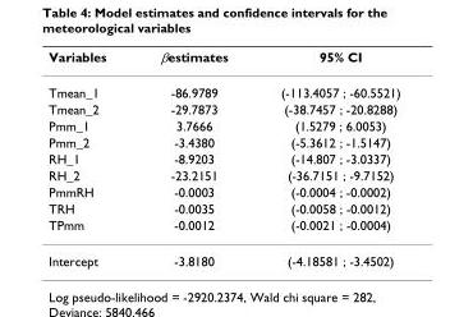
<table><thead><tr><td>Variables</td><td>βestimates</td><td>95% CI</td></tr></thead><tbody><tr><td>Tmean_1</td><td>-86.9789</td><td>(-113.4057 ; -60.5521)</td></tr><tr><td>Tmean_2</td><td>-29.7873</td><td>(-38.7457 ; -20.8288)</td></tr><tr><td>Pmm_1</td><td>3.7666</td><td>(1.5279 ; 6.0053)</td></tr><tr><td>Pmm_2</td><td>-3.4380</td><td>(-5.3612 ; -1.5147)</td></tr><tr><td>RH_1</td><td>-8.9203</td><td>(-14.807 ; -3.0337)</td></tr><tr><td>RH_2</td><td>-23.2151</td><td>(-36.7151 ; -9.7152)</td></tr><tr><td>PmmRH</td><td>-0.0003</td><td>(-0.0004 ; -0.0002)</td></tr><tr><td>TRH</td><td>-0.0035</td><td>(-0.0058 ; -0.0012)</td></tr><tr><td>TPmm</td><td>-0.0012</td><td>(-0.0021 ; -0.0004)</td></tr><tr><td>Intercept</td><td>-3.8180</td><td>(-4.18581 ; -3.4502)</td></tr></tbody></table>